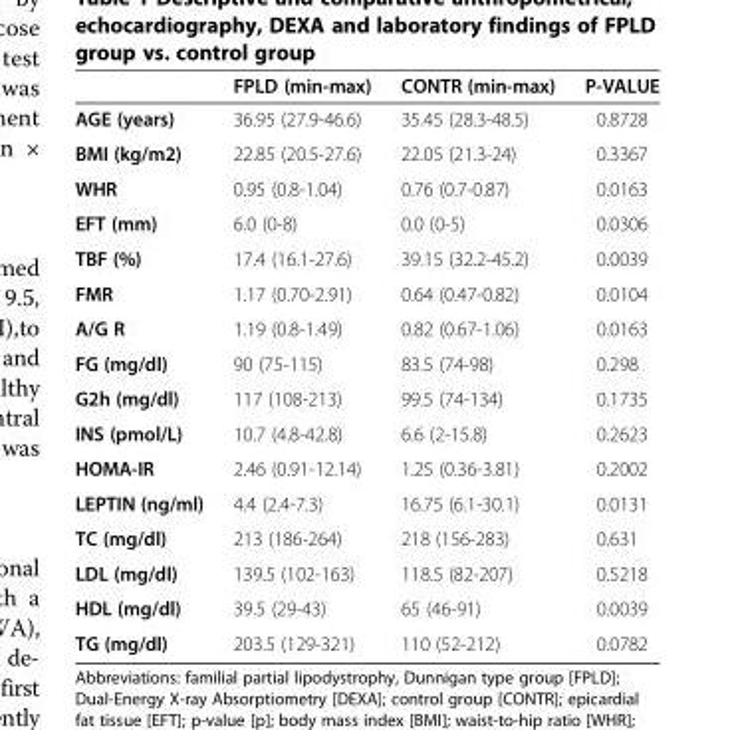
<table><thead><tr><td></td><td>FPLD (min-max)</td><td>CONTR (min-max)</td><td>P-VALUE</td></tr></thead><tbody><tr><td>AGE (years)</td><td>36.95 (27.9-46.6)</td><td>35.45 (28.3-48.5)</td><td>0.8728</td></tr><tr><td>BMI (kg/m2)</td><td>22.85 (20.5-27.6)</td><td>22.05 (21.3-24)</td><td>0.3367</td></tr><tr><td>WHR</td><td>0.95 (0.8-1.04)</td><td>0.76 (0.7-0.87)</td><td>0.0163</td></tr><tr><td>EFT (mm)</td><td>6.0 (0-8)</td><td>0.0 (0-5)</td><td>0.0306</td></tr><tr><td>TBF (%)</td><td>17.4 (16.1-27.6)</td><td>39.15 (32.2-45.2)</td><td>0.0039</td></tr><tr><td>FMR</td><td>1.17 (0.70-2.91)</td><td>0.64 (0.47-0.82)</td><td>0.0104</td></tr><tr><td>A/G R</td><td>1.19 (0.8-1.49)</td><td>0.82 (0.67-1.06)</td><td>0.0163</td></tr><tr><td>FG (mg/dl)</td><td>90 (75-115)</td><td>83.5 (74-98)</td><td>0.298</td></tr><tr><td>G2h (mg/dl)</td><td>117 (108-213)</td><td>99.5 (74-134)</td><td>0.1735</td></tr><tr><td>INS (pmol/L)</td><td>10.7 (4.8-42.8)</td><td>6.6 (2-15.8)</td><td>0.2623</td></tr><tr><td>HOMA-IR</td><td>2.46 (0.91-12.14)</td><td>1.25 (0.36-3.81)</td><td>0.2002</td></tr><tr><td>LEPTIN (ng/ml)</td><td>4.4 (2.4-7.3)</td><td>16.75 (6.1-30.1)</td><td>0.0131</td></tr><tr><td>TC (mg/dl)</td><td>213 (186-264)</td><td>218 (156-283)</td><td>0.631</td></tr><tr><td>LDL (mg/dl)</td><td>139.5 (102-163)</td><td>118.5 (82-207)</td><td>0.5218</td></tr><tr><td>HDL (mg/dl)</td><td>39.5 (29-43)</td><td>65 (46-91)</td><td>0.0039</td></tr><tr><td>TG (mg/dl)</td><td>203.5 (129-321)</td><td>110 (52-212)</td><td>0.0782</td></tr></tbody></table>